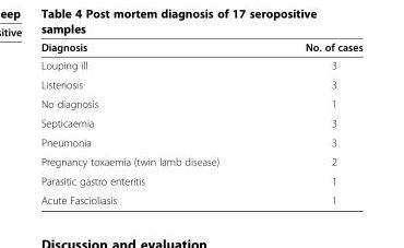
<table><thead><tr><td>Diagnosis</td><td>No. of cases</td></tr></thead><tbody><tr><td>Louping ill</td><td>3</td></tr><tr><td>Listeriosis</td><td>3</td></tr><tr><td>No diagnosis</td><td>1</td></tr><tr><td>Septicaemia</td><td>3</td></tr><tr><td>Pneumonia</td><td>3</td></tr><tr><td>Pregnancy toxaemia (twin lamb disease)</td><td>2</td></tr><tr><td>Parasitic gastro enteritis</td><td>1</td></tr><tr><td>Acute Fascioliasis</td><td>1</td></tr></tbody></table>